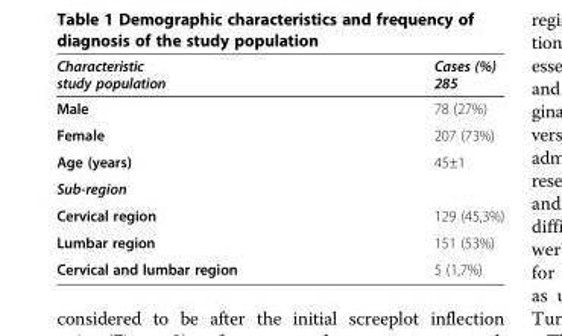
<table><thead><tr><td>Characteristic study population</td><td>Cases (%) 285</td></tr></thead><tbody><tr><td>Male</td><td>78 (27%)</td></tr><tr><td>Female</td><td>207 (73%)</td></tr><tr><td>Age (years)</td><td>45±1</td></tr><tr><td colspan="2">Sub-region</td></tr><tr><td>Cervical region</td><td>129 (45,3%)</td></tr><tr><td>Lumbar region</td><td>151 (53%)</td></tr><tr><td>Cervical and lumbar region</td><td>5 (1,7%)</td></tr></tbody></table>